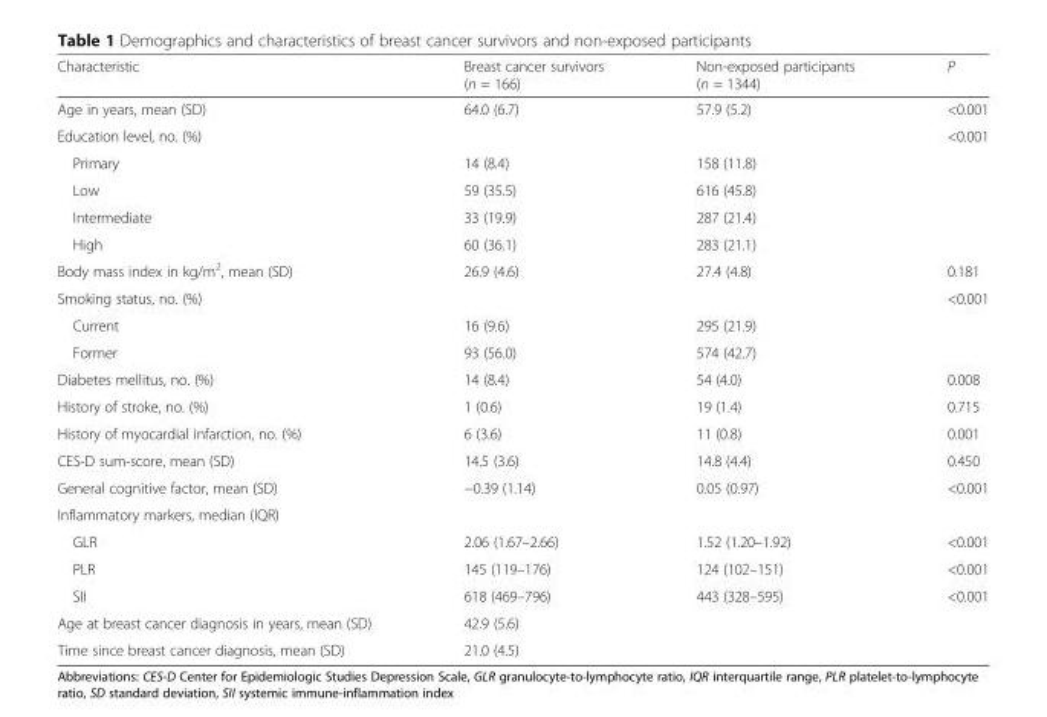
<table><thead><tr><td>Characteristic</td><td>Breast cancer survivors (n = 166)</td><td>Non-exposed participants (n = 1344)</td><td>P</td></tr></thead><tbody><tr><td>Age in years, mean (SD)</td><td>64.0 (6.7)</td><td>57.9 (5.2)</td><td>&lt;0.001</td></tr><tr><td>Education level, no. (%)</td><td></td><td></td><td>&lt;0.001</td></tr><tr><td>Primary</td><td>14 (8.4)</td><td>158 (11.8)</td><td></td></tr><tr><td>Low</td><td>59 (35.5)</td><td>616 (45.8)</td><td></td></tr><tr><td>Intermediate</td><td>33 (19.9)</td><td>287 (21.4)</td><td></td></tr><tr><td>High</td><td>60 (36.1)</td><td>283 (21.1)</td><td></td></tr><tr><td>Body mass index in kg/m<sup>2</sup>, mean (SD)</td><td>26.9 (4.6)</td><td>27.4 (4.8)</td><td>0.181</td></tr><tr><td>Smoking status, no. (%)</td><td></td><td></td><td>&lt;0.001</td></tr><tr><td>Current</td><td>16 (9.6)</td><td>295 (21.9)</td><td></td></tr><tr><td>Former</td><td>93 (56.0)</td><td>574 (42.7)</td><td></td></tr><tr><td>Diabetes mellitus, no. (%)</td><td>14 (8.4)</td><td>54 (4.0)</td><td>0.008</td></tr><tr><td>History of stroke, no. (%)</td><td>1 (0.6)</td><td>19 (1.4)</td><td>0.715</td></tr><tr><td>History of myocardial infarction, no. (%)</td><td>6 (3.6)</td><td>11 (0.8)</td><td>0.001</td></tr><tr><td>CES-D sum-score, mean (SD)</td><td>14.5 (3.6)</td><td>14.8 (4.4)</td><td>0.450</td></tr><tr><td>General cognitive factor, mean (SD)</td><td>−0.39 (1.14)</td><td>0.05 (0.97)</td><td>&lt;0.001</td></tr><tr><td colspan="4">Inflammatory markers, median (IQR)</td></tr><tr><td>GLR</td><td>2.06 (1.67–2.66)</td><td>1.52 (1.20–1.92)</td><td>&lt;0.001</td></tr><tr><td>PLR</td><td>145 (119–176)</td><td>124 (102–151)</td><td>&lt;0.001</td></tr><tr><td>SII</td><td>618 (469–796)</td><td>443 (328–595)</td><td>&lt;0.001</td></tr><tr><td>Age at breast cancer diagnosis in years, mean (SD)</td><td>42.9 (5.6)</td><td></td><td></td></tr><tr><td>Time since breast cancer diagnosis, mean (SD)</td><td>21.0 (4.5)</td><td></td><td></td></tr></tbody></table>